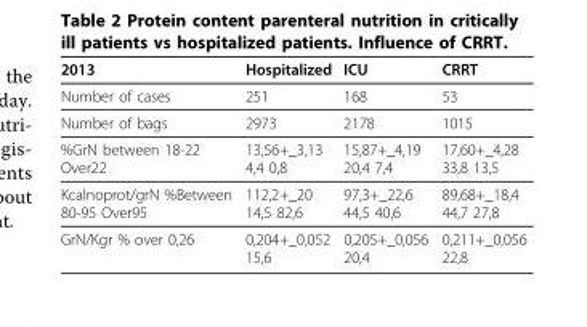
<table><thead><tr><td>2013</td><td>Hospitalized</td><td>ICU</td><td>CRRT</td></tr></thead><tbody><tr><td>Number of cases</td><td>251</td><td>168</td><td>53</td></tr><tr><td>Number of bags</td><td>2973</td><td>2178</td><td>1015</td></tr><tr><td>%GrN between 18-22 Over22</td><td>13,56+_3,13 4,4 0,8</td><td>15,87+_4,19 20,4 7,4</td><td>17,60+_4,28 33,8 13,5</td></tr><tr><td>Kcalnoprot/grN %Between 80-95 Over95</td><td>112,2+_20 14,5 82,6</td><td>97,3+_22,6 44,5 40,6</td><td>89,68+_18,4 44,7 27,8</td></tr><tr><td>GrN/Kgr % over 0,26</td><td>0,204+_0,052 15,6</td><td>0,205+_0,056 20,4</td><td>0,211+_0,056 22,8</td></tr></tbody></table>